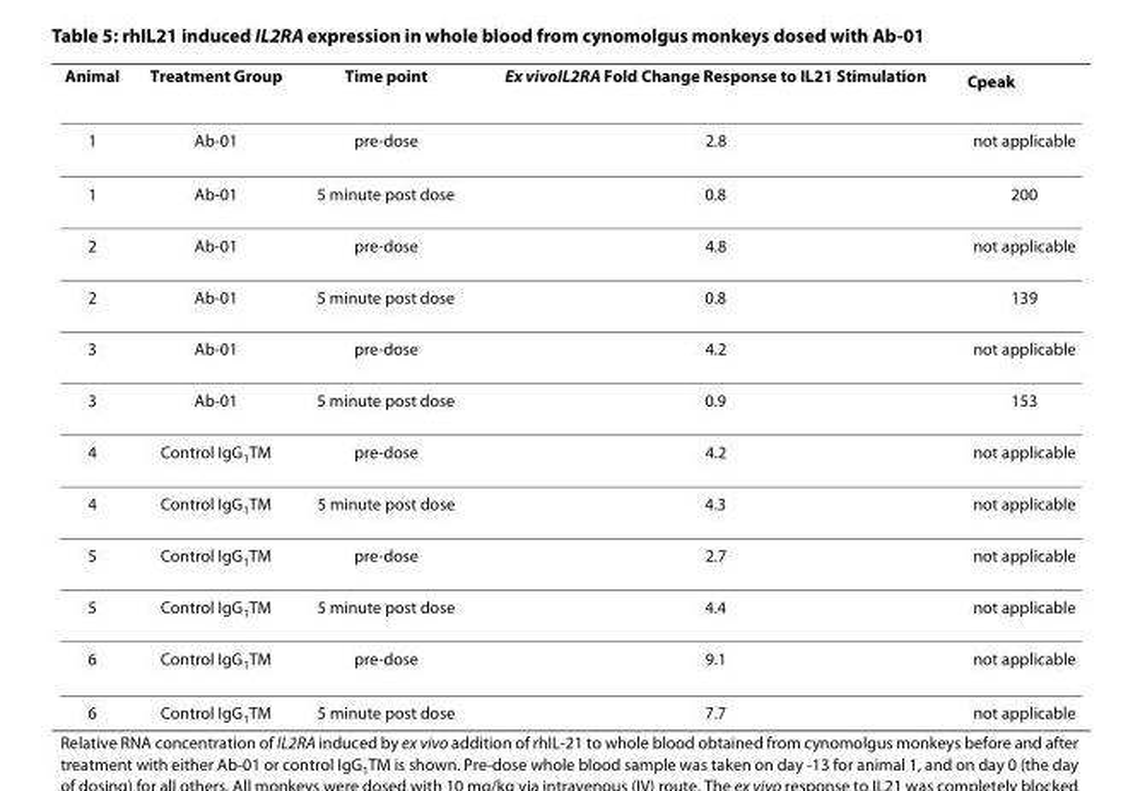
<table><thead><tr><td>Animal</td><td>Treatment Group</td><td>Time point</td><td>Ex vivoIL2RA Fold Change Response to IL21 Stimulation</td><td>C<sub>peak</sub></td></tr></thead><tbody><tr><td>1</td><td>Ab-01</td><td>pre-dose</td><td>2.8</td><td>not applicable</td></tr><tr><td>1</td><td>Ab-01</td><td>5 minute post dose</td><td>0.8</td><td>200</td></tr><tr><td>2</td><td>Ab-01</td><td>pre-dose</td><td>4.8</td><td>not applicable</td></tr><tr><td>2</td><td>Ab-01</td><td>5 minute post dose</td><td>0.8</td><td>139</td></tr><tr><td>3</td><td>Ab-01</td><td>pre-dose</td><td>4.2</td><td>not applicable</td></tr><tr><td>3</td><td>Ab-01</td><td>5 minute post dose</td><td>0.9</td><td>153</td></tr><tr><td>4</td><td>Control IgG<sub>1</sub>TM</td><td>pre-dose</td><td>4.2</td><td>not applicable</td></tr><tr><td>4</td><td>Control IgG<sub>1</sub>TM</td><td>5 minute post dose</td><td>4.3</td><td>not applicable</td></tr><tr><td>5</td><td>Control IgG<sub>1</sub>TM</td><td>pre-dose</td><td>2.7</td><td>not applicable</td></tr><tr><td>5</td><td>Control IgG<sub>1</sub>TM</td><td>5 minute post dose</td><td>4.4</td><td>not applicable</td></tr><tr><td>6</td><td>Control IgG<sub>1</sub>TM</td><td>pre-dose</td><td>9.1</td><td>not applicable</td></tr><tr><td>6</td><td>Control IgG<sub>1</sub>TM</td><td>5 minute post dose</td><td>7.7</td><td>not applicable</td></tr></tbody></table>